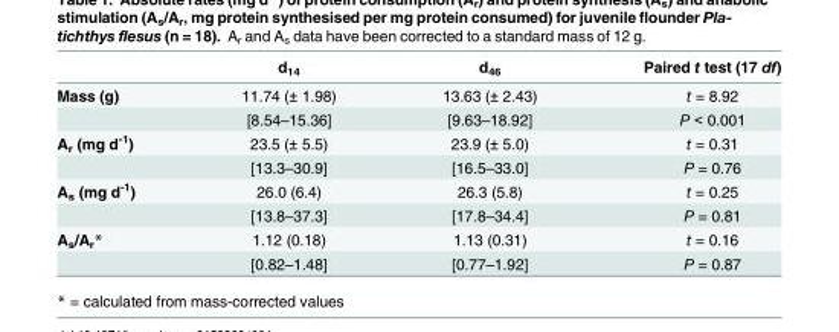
<table><thead><tr><td></td><td>d<sub>14</sub></td><td>d<sub>46</sub></td><td>Paired t test (17 df)</td></tr></thead><tbody><tr><td rowspan="2">Mass (g)</td><td>11.74 (± 1.98)</td><td>13.63 (± 2.43)</td><td>t = 8.92</td></tr><tr><td>[8.54–15.36]</td><td>[9.63–18.92]</td><td>P &lt; 0.001</td></tr><tr><td rowspan="2">A<sub>r</sub> (mg d<sup>-1</sup>)</td><td>23.5 (± 5.5)</td><td>23.9 (± 5.0)</td><td>t = 0.31</td></tr><tr><td>[13.3–30.9]</td><td>[16.5–33.0]</td><td>P = 0.76</td></tr><tr><td rowspan="2">A<sub>s</sub> (mg d<sup>-1</sup>)</td><td>26.0 (6.4)</td><td>26.3 (5.8)</td><td>t = 0.25</td></tr><tr><td>[13.8–37.3]</td><td>[17.8–34.4]</td><td>P = 0.81</td></tr><tr><td rowspan="2">A<sub>s</sub>/A<sub>r</sub>*</td><td>1.12 (0.18)</td><td>1.13 (0.31)</td><td>t = 0.16</td></tr><tr><td>[0.82–1.48]</td><td>[0.77–1.92]</td><td>P = 0.87</td></tr></tbody></table>